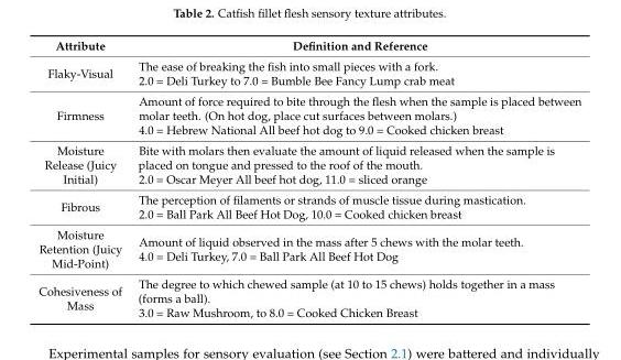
<table><thead><tr><td>Attribute</td><td>Definition and Reference</td></tr></thead><tbody><tr><td>Flaky-Visual</td><td>The ease of breaking the fish into small pieces with a fork. 2.0 = Deli Turkey to 7.0 = Bumble Bee Fancy Lump crab meat</td></tr><tr><td>Firmness</td><td>Amount of force required to bite through the flesh when the sample is placed between molar teeth. (On hot dog, place cut surfaces between molars.) 4.0 = Hebrew National All beef hot dog to 9.0 = Cooked chicken breast</td></tr><tr><td>Moisture Release (Juicy Initial)</td><td>Bite with molars then evaluate the amount of liquid released when the sample is placed on tongue and pressed to the roof of the mouth. 2.0 = Oscar Meyer All beef hot dog, 11.0 = sliced orange</td></tr><tr><td>Fibrous</td><td>The perception of filaments or strands of muscle tissue during mastication. 2.0 = Ball Park All Beef Hot Dog, 10.0 = Cooked chicken breast</td></tr><tr><td>Moisture Retention (Juicy Mid-Point)</td><td>Amount of liquid observed in the mass after 5 chews with the molar teeth. 4.0 = Deli Turkey, 7.0 = Ball Park All Beef Hot Dog</td></tr><tr><td>Cohesiveness of Mass</td><td>The degree to which chewed sample (at 10 to 15 chews) holds together in a mass (forms a ball). 3.0 = Raw Mushroom, to 8.0 = Cooked Chicken Breast</td></tr></tbody></table>